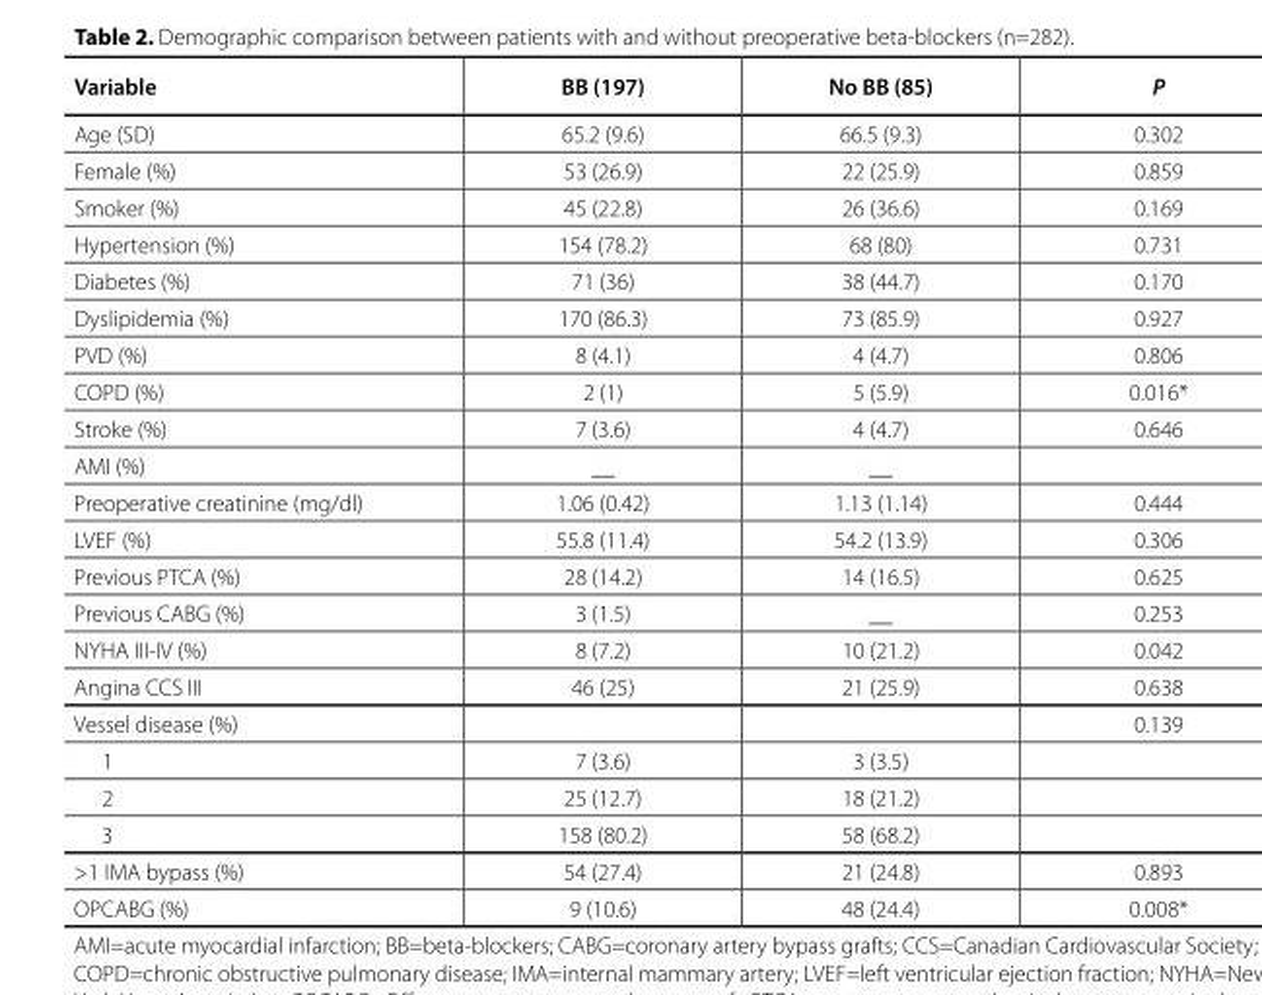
<table><thead><tr><td>Variable</td><td>BB (197)</td><td>No BB (85)</td><td>P</td></tr></thead><tbody><tr><td>Age (SD)</td><td>65.2 (9.6)</td><td>66.5 (9.3)</td><td>0.302</td></tr><tr><td>Female (%)</td><td>53 (26.9)</td><td>22 (25.9)</td><td>0.859</td></tr><tr><td>Smoker (%)</td><td>45 (22.8)</td><td>26 (36.6)</td><td>0.169</td></tr><tr><td>Hypertension (%)</td><td>154 (78.2)</td><td>68 (80)</td><td>0.731</td></tr><tr><td>Diabetes (%)</td><td>71 (36)</td><td>38 (44.7)</td><td>0.170</td></tr><tr><td>Dyslipidemia (%)</td><td>170 (86.3)</td><td>73 (85.9)</td><td>0.927</td></tr><tr><td>PVD (%)</td><td>8 (4.1)</td><td>4 (4.7)</td><td>0.806</td></tr><tr><td>COPD (%)</td><td>2 (1)</td><td>5 (5.9)</td><td>0.016*</td></tr><tr><td>Stroke (%)</td><td>7 (3.6)</td><td>4 (4.7)</td><td>0.646</td></tr><tr><td>AMI (%)</td><td>__</td><td>__</td><td></td></tr><tr><td>Preoperative creatinine (mg/dl)</td><td>1.06 (0.42)</td><td>1.13 (1.14)</td><td>0.444</td></tr><tr><td>LVEF (%)</td><td>55.8 (11.4)</td><td>54.2 (13.9)</td><td>0.306</td></tr><tr><td>Previous PTCA (%)</td><td>28 (14.2)</td><td>14 (16.5)</td><td>0.625</td></tr><tr><td>Previous CABG (%)</td><td>3 (1.5)</td><td>__</td><td>0.253</td></tr><tr><td>NYHA III-IV (%)</td><td>8 (7.2)</td><td>10 (21.2)</td><td>0.042</td></tr><tr><td>Angina CCS III</td><td>46 (25)</td><td>21 (25.9)</td><td>0.638</td></tr><tr><td>Vessel disease (%)</td><td></td><td></td><td>0.139</td></tr><tr><td>1</td><td>7 (3.6)</td><td>3 (3.5)</td><td></td></tr><tr><td>2</td><td>25 (12.7)</td><td>18 (21.2)</td><td></td></tr><tr><td>3</td><td>158 (80.2)</td><td>58 (68.2)</td><td></td></tr><tr><td>&gt;1 IMA bypass (%)</td><td>54 (27.4)</td><td>21 (24.8)</td><td>0.893</td></tr><tr><td>OPCABG (%)</td><td>9 (10.6)</td><td>48 (24.4)</td><td>0.008*</td></tr></tbody></table>